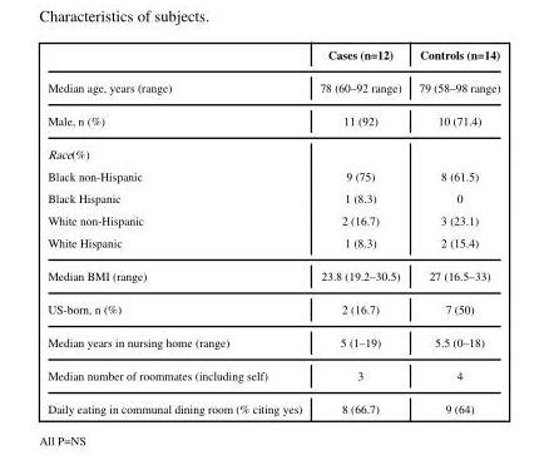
<table><thead><tr><td></td><td>Cases (n=12)</td><td>Controls (n=14)</td></tr></thead><tbody><tr><td>Median age, years (range)</td><td>78 (60–92 range)</td><td>79 (58–98 range)</td></tr><tr><td>Male, n (%)</td><td>11 (92)</td><td>10 (71.4)</td></tr><tr><td colspan="3">Race(%)</td></tr><tr><td>Black non-Hispanic</td><td>9 (75)</td><td>8 (61.5)</td></tr><tr><td>Black Hispanic</td><td>1 (8.3)</td><td>0</td></tr><tr><td>White non-Hispanic</td><td>2 (16.7)</td><td>3 (23.1)</td></tr><tr><td>White Hispanic</td><td>1 (8.3)</td><td>2 (15.4)</td></tr><tr><td>Median BMI (range)</td><td>23.8 (19.2–30.5)</td><td>27 (16.5–33)</td></tr><tr><td>US-born, n (%)</td><td>2 (16.7)</td><td>7 (50)</td></tr><tr><td>Median years in nursing home (range)</td><td>5 (1–19)</td><td>5.5 (0–18)</td></tr><tr><td>Median number of roommates (including self)</td><td>3</td><td>4</td></tr><tr><td>Daily eating in communal dining room (% citing yes)</td><td>8 (66.7)</td><td>9 (64)</td></tr></tbody></table>